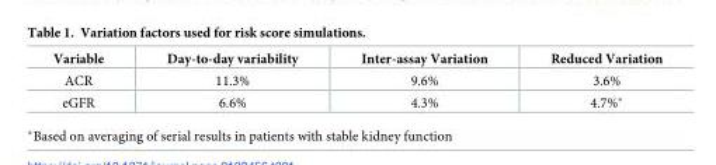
<table><thead><tr><td>Variable</td><td>Day-to-day variability</td><td>Inter-assay Variation</td><td>Reduced Variation</td></tr></thead><tbody><tr><td>ACR</td><td>11.3%</td><td>9.6%</td><td>3.6%</td></tr><tr><td>eGFR</td><td>6.6%</td><td>4.3%</td><td>4.7%*</td></tr></tbody></table>